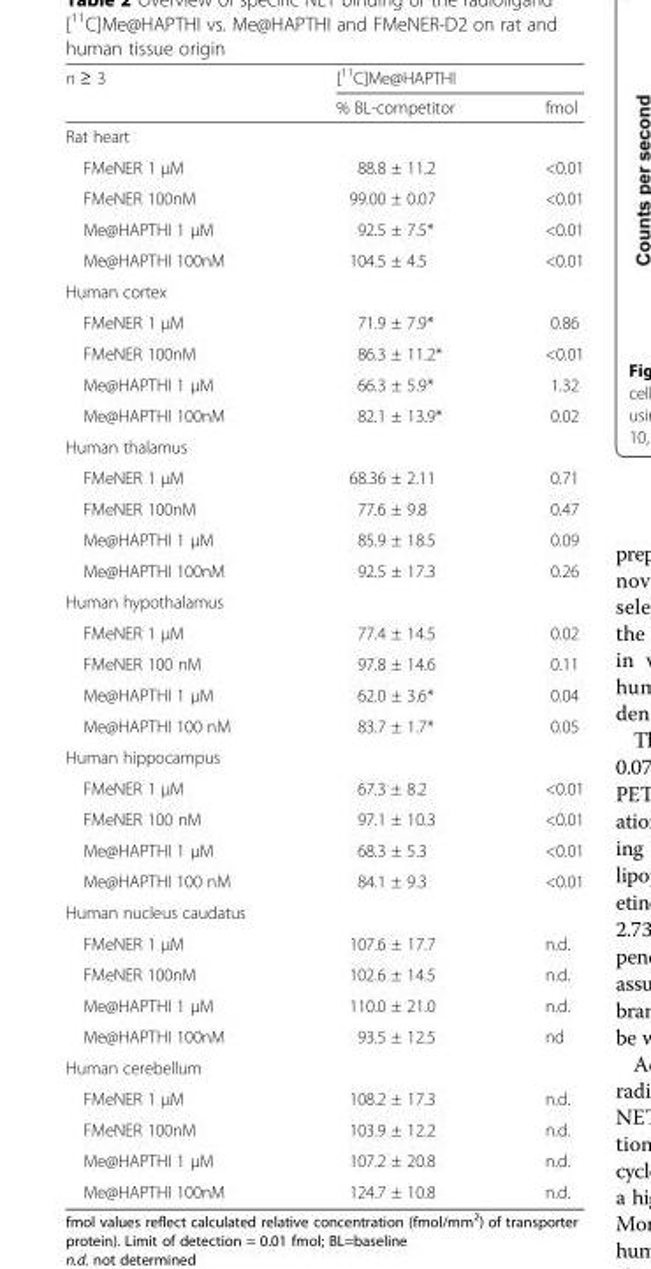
<table><thead><tr><td rowspan="2">n ≥ 3</td><td colspan="2">[<sup>11</sup>C]Me@HAPTHI</td></tr><tr><td>% BL-competitor</td><td>fmol</td></tr></thead><tbody><tr><td colspan="3">Rat heart</td></tr><tr><td>FMeNER 1 μM</td><td>88.8 ± 11.2</td><td>&lt;0.01</td></tr><tr><td>FMeNER 100nM</td><td>99.00 ± 0.07</td><td>&lt;0.01</td></tr><tr><td>Me@HAPTHI 1 μM</td><td>92.5 ± 7.5*</td><td>&lt;0.01</td></tr><tr><td>Me@HAPTHI 100nM</td><td>104.5 ± 4.5</td><td>&lt;0.01</td></tr><tr><td colspan="3">Human cortex</td></tr><tr><td>FMeNER 1 μM</td><td>71.9 ± 7.9*</td><td>0.86</td></tr><tr><td>FMeNER 100nM</td><td>86.3 ± 11.2*</td><td>&lt;0.01</td></tr><tr><td>Me@HAPTHI 1 μM</td><td>66.3 ± 5.9*</td><td>1.32</td></tr><tr><td>Me@HAPTHI 100nM</td><td>82.1 ± 13.9*</td><td>0.02</td></tr><tr><td colspan="3">Human thalamus</td></tr><tr><td>FMeNER 1 μM</td><td>68.36 ± 2.11</td><td>0.71</td></tr><tr><td>FMeNER 100nM</td><td>77.6 ± 9.8</td><td>0.47</td></tr><tr><td>Me@HAPTHI 1 μM</td><td>85.9 ± 18.5</td><td>0.09</td></tr><tr><td>Me@HAPTHI 100nM</td><td>92.5 ± 17.3</td><td>0.26</td></tr><tr><td colspan="3">Human hypothalamus</td></tr><tr><td>FMeNER 1 μM</td><td>77.4 ± 14.5</td><td>0.02</td></tr><tr><td>FMeNER 100 nM</td><td>97.8 ± 14.6</td><td>0.11</td></tr><tr><td>Me@HAPTHI 1 μM</td><td>62.0 ± 3.6*</td><td>0.04</td></tr><tr><td>Me@HAPTHI 100 nM</td><td>83.7 ± 1.7*</td><td>0.05</td></tr><tr><td colspan="3">Human hippocampus</td></tr><tr><td>FMeNER 1 μM</td><td>67.3 ± 8.2</td><td>&lt;0.01</td></tr><tr><td>FMeNER 100 nM</td><td>97.1 ± 10.3</td><td>&lt;0.01</td></tr><tr><td>Me@HAPTHI 1 μM</td><td>68.3 ± 5.3</td><td>&lt;0.01</td></tr><tr><td>Me@HAPTHI 100 nM</td><td>84.1 ± 9.3</td><td>&lt;0.01</td></tr><tr><td colspan="3">Human nucleus caudatus</td></tr><tr><td>FMeNER 1 μM</td><td>107.6 ± 17.7</td><td>n.d.</td></tr><tr><td>FMeNER 100nM</td><td>102.6 ± 14.5</td><td>n.d.</td></tr><tr><td>Me@HAPTHI 1 μM</td><td>110.0 ± 21.0</td><td>n.d.</td></tr><tr><td>Me@HAPTHI 100nM</td><td>93.5 ± 12.5</td><td>nd</td></tr><tr><td colspan="3">Human cerebellum</td></tr><tr><td>FMeNER 1 μM</td><td>108.2 ± 17.3</td><td>n.d.</td></tr><tr><td>FMeNER 100nM</td><td>103.9 ± 12.2</td><td>n.d.</td></tr><tr><td>Me@HAPTHI 1 μM</td><td>107.2 ± 20.8</td><td>n.d.</td></tr><tr><td>Me@HAPTHI 100nM</td><td>124.7 ± 10.8</td><td>n.d.</td></tr></tbody></table>